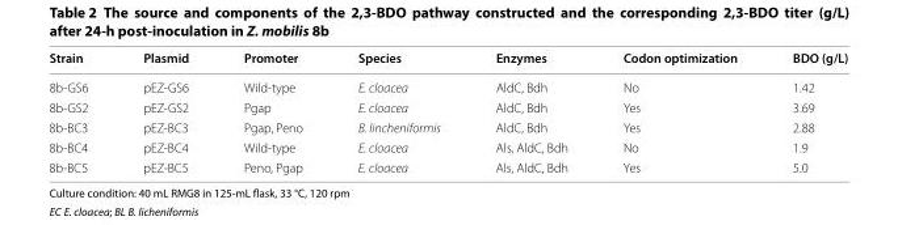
<table><thead><tr><td>Strain</td><td>Plasmid</td><td>Promoter</td><td>Species</td><td>Enzymes</td><td>Codon optimization</td><td>BDO (g/L)</td></tr></thead><tbody><tr><td>8b‑GS6</td><td>pEZ‑GS6</td><td>Wild‑type</td><td>E. cloacea</td><td>AldC, Bdh</td><td>No</td><td>1.42</td></tr><tr><td>8b‑GS2</td><td>pEZ‑GS2</td><td>Pgap</td><td>E. cloacea</td><td>AldC, Bdh</td><td>Yes</td><td>3.69</td></tr><tr><td>8b‑BC3</td><td>pEZ‑BC3</td><td>Pgap, Peno</td><td>B. lincheniformis</td><td>AldC, Bdh</td><td>Yes</td><td>2.88</td></tr><tr><td>8b‑BC4</td><td>pEZ‑BC4</td><td>Wild‑type</td><td>E. cloacea</td><td>Als, AldC, Bdh</td><td>No</td><td>1.9</td></tr><tr><td>8b‑BC5</td><td>pEZ‑BC5</td><td>Peno, Pgap</td><td>E. cloacea</td><td>Als, AldC, Bdh</td><td>Yes</td><td>5.0</td></tr></tbody></table>